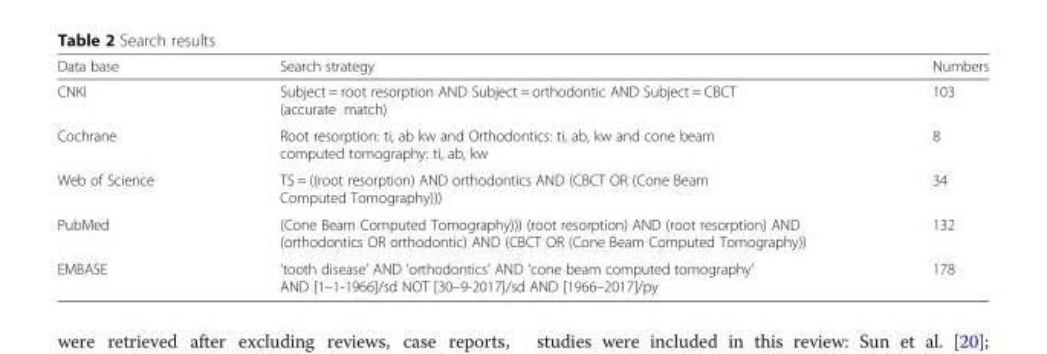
<table><thead><tr><td>Data base</td><td>Search strategy</td><td>Numbers</td></tr></thead><tbody><tr><td>CNKI</td><td>Subject = root resorption AND Subject = orthodontic AND Subject = CBCT (accurate match)</td><td>103</td></tr><tr><td>Cochrane</td><td>Root resorption: ti, ab kw and Orthodontics: ti, ab, kw and cone beam computed tomography: ti, ab, kw</td><td>8</td></tr><tr><td>Web of Science</td><td>TS = ((root resorption) AND orthodontics AND (CBCT OR (Cone Beam Computed Tomography)))</td><td>34</td></tr><tr><td>PubMed</td><td>(Cone Beam Computed Tomography))) (root resorption) AND (root resorption) AND (orthodontics OR orthodontic) AND (CBCT OR (Cone Beam Computed Tomography))</td><td>132</td></tr><tr><td>EMBASE</td><td>‘tooth disease’ AND ‘orthodontics’ AND ‘cone beam computed tomography’ AND [1–1-1966]/sd NOT [30–9-2017]/sd AND [1966–2017]/py</td><td>178</td></tr></tbody></table>